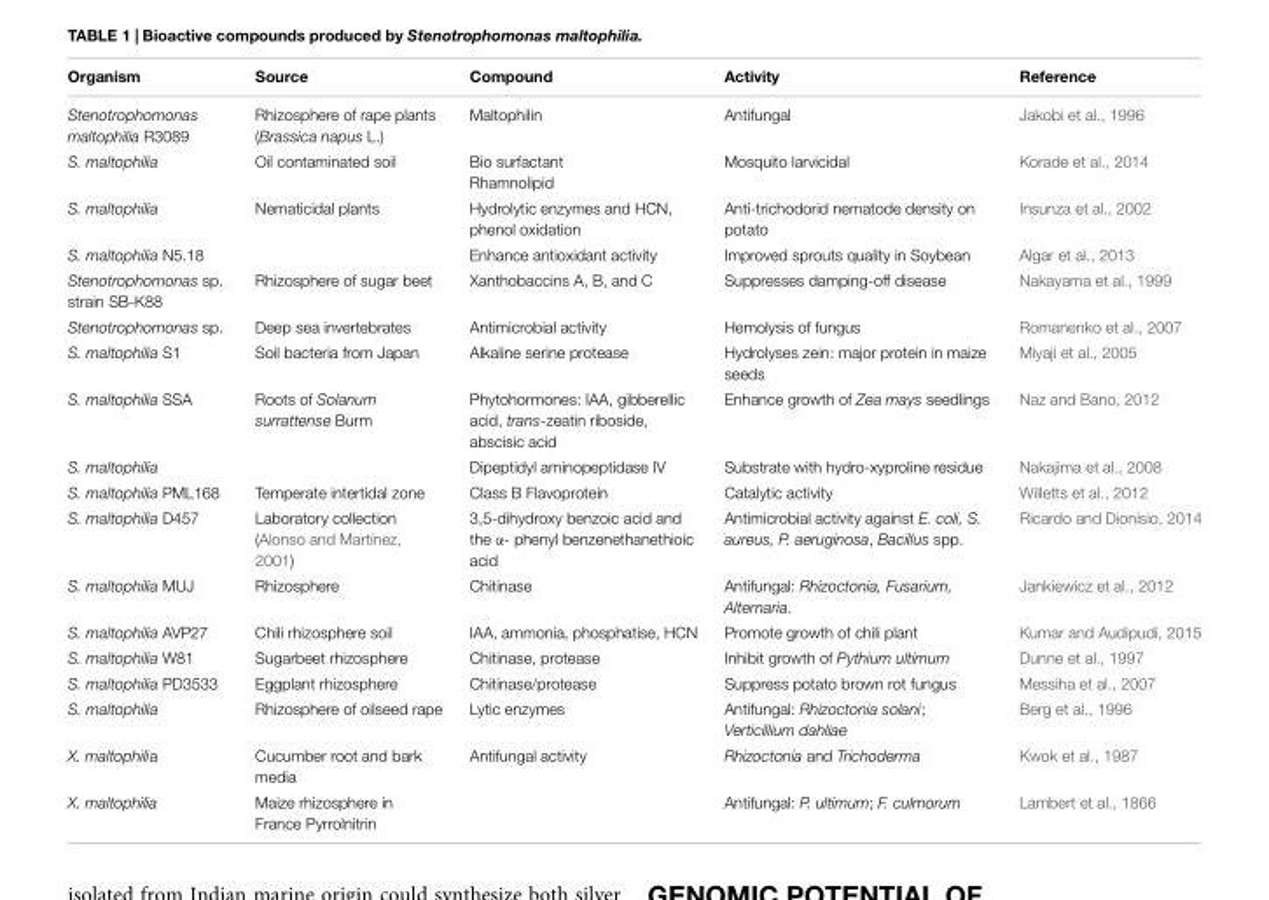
<table><thead><tr><td>Organism</td><td>Source</td><td>Compound</td><td>Activity</td><td>Reference</td></tr></thead><tbody><tr><td>Stenotrophomonas maltophilia R3089</td><td>Rhizosphere of rape plants (Brassica napus L.)</td><td>Maltophilin</td><td>Antifungal</td><td>Jakobi et al., 1996</td></tr><tr><td>S. maltophilia</td><td>Oil contaminated soil</td><td>Bio surfactant Rhamnolipid</td><td>Mosquito larvicidal</td><td>Korade et al., 2014</td></tr><tr><td>S. maltophilia</td><td>Nematicidal plants</td><td>Hydrolytic enzymes and HCN, phenol oxidation</td><td>Anti-trichodorid nematode density on potato</td><td>Insunza et al., 2002</td></tr><tr><td>S. maltophilia N5.18</td><td></td><td>Enhance antioxidant activity</td><td>Improved sprouts quality in Soybean</td><td>Algar et al., 2013</td></tr><tr><td>Stenotrophomonas sp. strain SB-K88</td><td>Rhizosphere of sugar beet</td><td>Xanthobaccins A, B, and C</td><td>Suppresses damping-off disease</td><td>Nakayama et al., 1999</td></tr><tr><td>Stenotrophomonas sp.</td><td>Deep sea invertebrates</td><td>Antimicrobial activity</td><td>Hemolysis of fungus</td><td>Romanenko et al., 2007</td></tr><tr><td>S. maltophilia S1</td><td>Soil bacteria from Japan</td><td>Alkaline serine protease</td><td>Hydrolyses zein: major protein in maize seeds</td><td>Miyaji et al., 2005</td></tr><tr><td>S. maltophilia SSA</td><td>Roots of Solanum surrattense Burm</td><td>Phytohormones: IAA, gibberellic acid, trans-zeatin riboside, abscisic acid</td><td>Enhance growth of Zea mays seedlings</td><td>Naz and Bano, 2012</td></tr><tr><td>S. maltophilia</td><td></td><td>Dipeptidyl aminopeptidase IV</td><td>Substrate with hydro-xyproline residue</td><td>Nakajima et al., 2008</td></tr><tr><td>S. maltophilia PML168</td><td>Temperate intertidal zone</td><td>Class B Flavoprotein</td><td>Catalytic activity</td><td>Willetts et al., 2012</td></tr><tr><td>S. maltophilia D457</td><td>Laboratory collection (Alonso and Martínez, 2001)</td><td>3,5-dihydroxy benzoic acid and the α- phenyl benzenethanethioic acid</td><td>Antimicrobial activity against E. coli, S. aureus, P. aeruginosa, Bacillus spp.</td><td>Ricardo and Dionísio, 2014</td></tr><tr><td>S. maltophilia MUJ</td><td>Rhizosphere</td><td>Chitinase</td><td>Antifungal: Rhizoctonia, Fusarium, Alternaria.</td><td>Jankiewicz et al., 2012</td></tr><tr><td>S. maltophilia AVP27</td><td>Chili rhizosphere soil</td><td>IAA, ammonia, phosphatise, HCN</td><td>Promote growth of chili plant</td><td>Kumar and Audipudi, 2015</td></tr><tr><td>S. maltophilia W81</td><td>Sugarbeet rhizosphere</td><td>Chitinase, protease</td><td>Inhibit growth of Pythium ultimum</td><td>Dunne et al., 1997</td></tr><tr><td>S. maltophilia PD3533</td><td>Eggplant rhizosphere</td><td>Chitinase/protease</td><td>Suppress potato brown rot fungus</td><td>Messiha et al., 2007</td></tr><tr><td>S. maltophilia</td><td>Rhizosphere of oilseed rape</td><td>Lytic enzymes</td><td>Antifungal: Rhizoctonia solani; Verticillium dahliae</td><td>Berg et al., 1996</td></tr><tr><td>X. maltophilia</td><td>Cucumber root and bark media</td><td>Antifungal activity</td><td>Rhizoctonia and Trichoderma</td><td>Kwok et al., 1987</td></tr><tr><td>X. maltophilia</td><td>Maize rhizosphere in France Pyrrolnitrin</td><td></td><td>Antifungal: P. ultimum; F. culmorum</td><td>Lambert et al., 1866</td></tr></tbody></table>